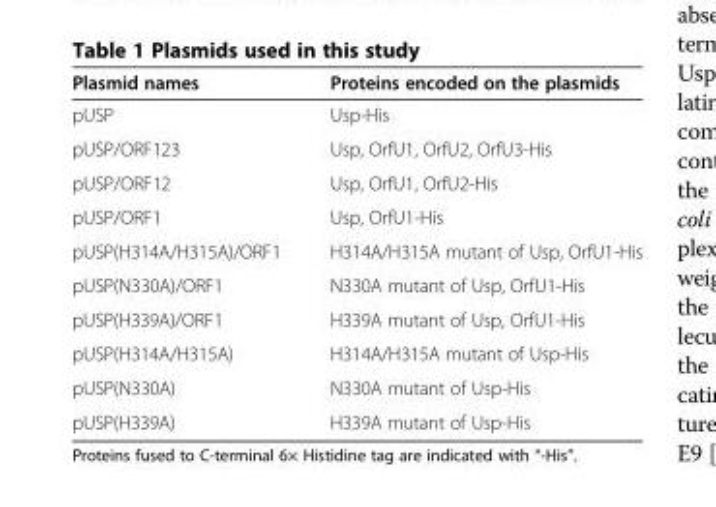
<table><thead><tr><td>Plasmid names</td><td>Proteins encoded on the plasmids</td></tr></thead><tbody><tr><td>pUSP</td><td>Usp-His</td></tr><tr><td>pUSP/ORF123</td><td>Usp, OrfU1, OrfU2, OrfU3-His</td></tr><tr><td>pUSP/ORF12</td><td>Usp, OrfU1, OrfU2-His</td></tr><tr><td>pUSP/ORF1</td><td>Usp, OrfU1-His</td></tr><tr><td>pUSP(H314A/H315A)/ORF1</td><td>H314A/H315A mutant of Usp, OrfU1-His</td></tr><tr><td>pUSP(N330A)/ORF1</td><td>N330A mutant of Usp, OrfU1-His</td></tr><tr><td>pUSP(H339A)/ORF1</td><td>H339A mutant of Usp, OrfU1-His</td></tr><tr><td>pUSP(H314A/H315A)</td><td>H314A/H315A mutant of Usp-His</td></tr><tr><td>pUSP(N330A)</td><td>N330A mutant of Usp-His</td></tr><tr><td>pUSP(H339A)</td><td>H339A mutant of Usp-His</td></tr></tbody></table>